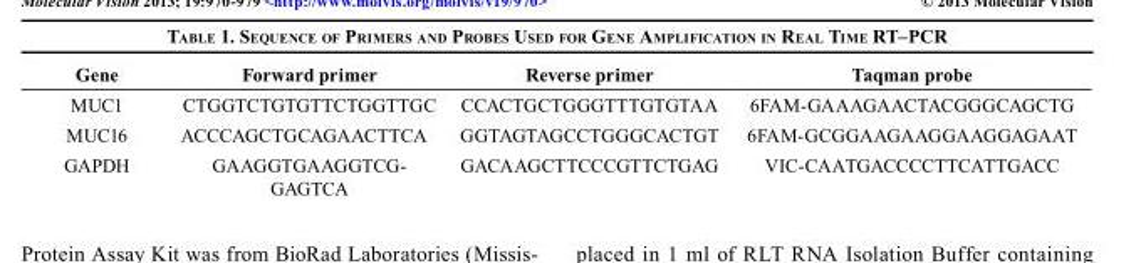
<table><thead><tr><td>Gene</td><td>Forward primer</td><td>Reverse primer</td><td>Taqman probe</td></tr></thead><tbody><tr><td>MUC1</td><td>CTGGTCTGTGTTCTGGTTGC</td><td>CCACTGCTGGGTTTGTGTAA</td><td>6FAM-GAAAGAACTACGGGCAGCTG</td></tr><tr><td>MUC16</td><td>ACCCAGCTGCAGAACTTCA</td><td>GGTAGTAGCCTGGGCACTGT</td><td>6FAM-GCGGAAGAAGGAAGGAGAAT</td></tr><tr><td>GAPDH</td><td>GAAGGTGAAGGTCG- GAGTCA</td><td>GACAAGCTTCCCGTTCTGAG</td><td>VIC-CAATGACCCCTTCATTGACC</td></tr></tbody></table>